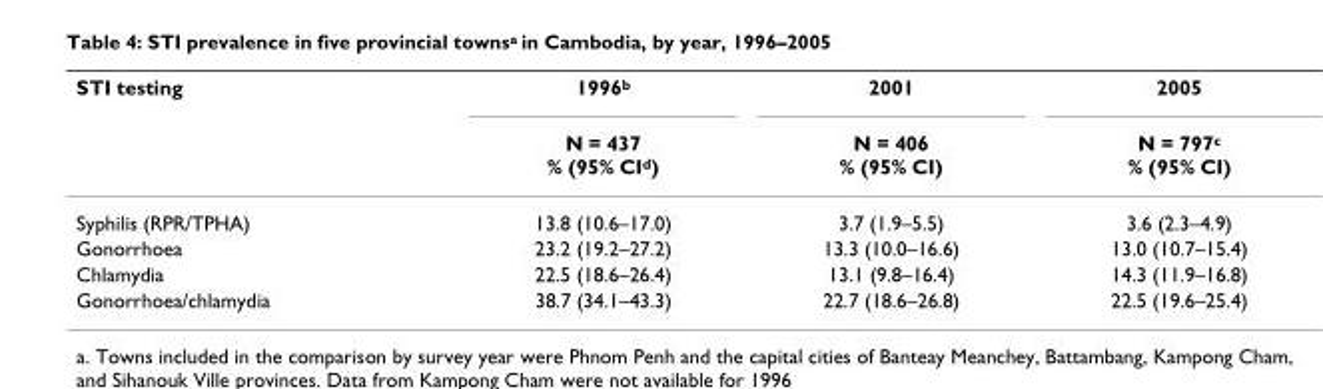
<table><thead><tr><td rowspan="2">STI testing</td><td rowspan="2">1996b N = 437 % (95% CId)</td><td rowspan="2">2001 N = 406 % (95% CI)</td><td rowspan="2">2005 N = 797c % (95% CI)</td></tr><tr></tr></thead><tbody><tr><td>Syphilis (RPR/TPHA)</td><td>13.8 (10.6–17.0)</td><td>3.7 (1.9–5.5)</td><td>3.6 (2.3–4.9)</td></tr><tr><td>Gonorrhoea</td><td>23.2 (19.2–27.2)</td><td>13.3 (10.0–16.6)</td><td>13.0 (10.7–15.4)</td></tr><tr><td>Chlamydia</td><td>22.5 (18.6–26.4)</td><td>13.1 (9.8–16.4)</td><td>14.3 (11.9–16.8)</td></tr><tr><td>Gonorrhoea/chlamydia</td><td>38.7 (34.1–43.3)</td><td>22.7 (18.6–26.8)</td><td>22.5 (19.6–25.4)</td></tr></tbody></table>